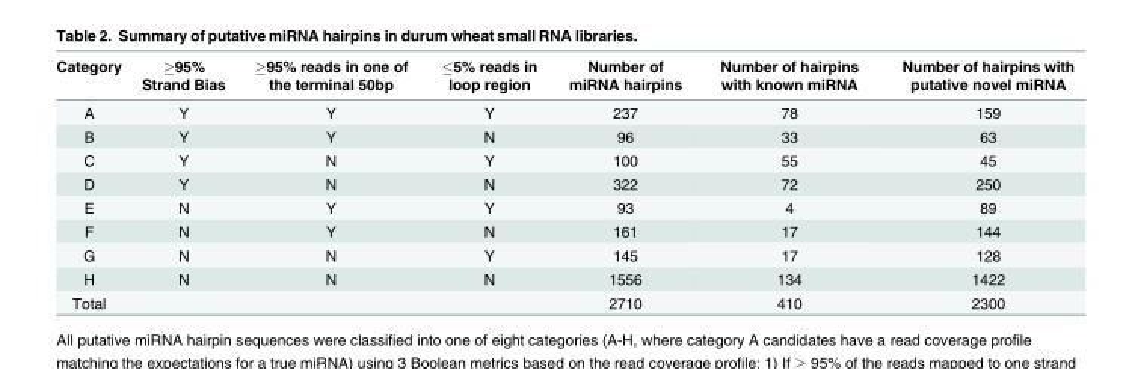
<table><thead><tr><td>Category</td><td>≥95% Strand Bias</td><td>≥95% reads in one of the terminal 50bp</td><td>≤5% reads in loop region</td><td>Number of miRNA hairpins</td><td>Number of hairpins with known miRNA</td><td>Number of hairpins with putative novel miRNA</td></tr></thead><tbody><tr><td>A</td><td>Y</td><td>Y</td><td>Y</td><td>237</td><td>78</td><td>159</td></tr><tr><td>B</td><td>Y</td><td>Y</td><td>N</td><td>96</td><td>33</td><td>63</td></tr><tr><td>C</td><td>Y</td><td>N</td><td>Y</td><td>100</td><td>55</td><td>45</td></tr><tr><td>D</td><td>Y</td><td>N</td><td>N</td><td>322</td><td>72</td><td>250</td></tr><tr><td>E</td><td>N</td><td>Y</td><td>Y</td><td>93</td><td>4</td><td>89</td></tr><tr><td>F</td><td>N</td><td>Y</td><td>N</td><td>161</td><td>17</td><td>144</td></tr><tr><td>G</td><td>N</td><td>N</td><td>Y</td><td>145</td><td>17</td><td>128</td></tr><tr><td>H</td><td>N</td><td>N</td><td>N</td><td>1556</td><td>134</td><td>1422</td></tr><tr><td>Total</td><td></td><td></td><td></td><td>2710</td><td>410</td><td>2300</td></tr></tbody></table>